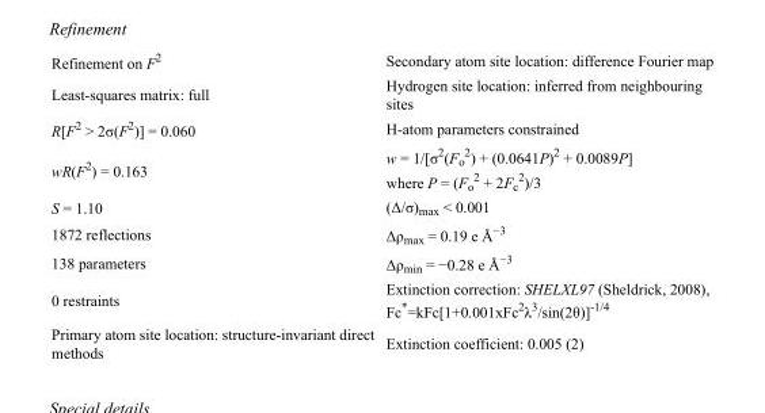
<table><tbody><tr><td>Refinement on F<sup>2</sup></td><td>Secondary atom site location: difference Fourier map</td></tr><tr><td>Least-squares matrix: full</td><td>Hydrogen site location: inferred from neighbouring sites</td></tr><tr><td>R[F<sup>2</sup> &gt; 2σ(F<sup>2</sup>)] = 0.060</td><td>H-atom parameters constrained</td></tr><tr><td>wR(F<sup>2</sup>) = 0.163</td><td>w = 1/[σ<sup>2</sup>(F<sub>o</sub> <sup>2</sup>) + (0.0641P)<sup>2</sup> + 0.0089P] where P = (F<sub>o</sub> <sup>2</sup> + 2F<sub>c</sub> <sup>2</sup>)/3</td></tr><tr><td>S = 1.10</td><td>(Δ/σ)<sub>max</sub> &lt; 0.001</td></tr><tr><td>1872 reflections</td><td>Δρ<sub>max</sub> = 0.19 e Å<sup>−3</sup></td></tr><tr><td>138 parameters</td><td>Δρ<sub>min</sub> = −0.28 e Å<sup>−3</sup></td></tr><tr><td>0 restraints</td><td>Extinction correction: SHELXL97 (Sheldrick, 2008), Fc*=kFc[1+0.001xFc<sup>2</sup>λ<sup>3</sup>/sin(2θ)]<sup>-1/4</sup></td></tr><tr><td>Primary atom site location: structure-invariant direct methods</td><td>Extinction coefficient: 0.005 (2)</td></tr></tbody></table>